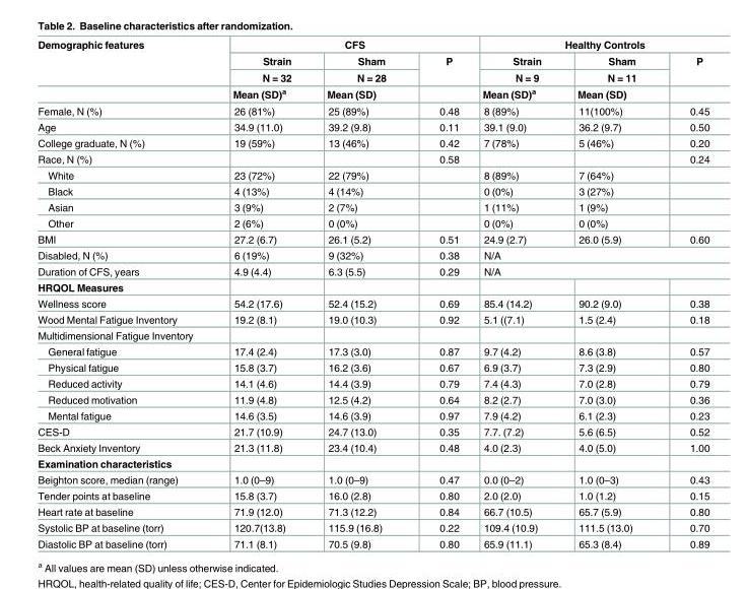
<table><thead><tr><td rowspan="4">Demographic features</td><td colspan="3">CFS</td><td colspan="3">Healthy Controls</td></tr><tr><td rowspan="3">Strain N = 32 Mean (SD)<sup>a</sup></td><td rowspan="3">Sham N = 28 Mean (SD)</td><td rowspan="3">P</td><td rowspan="3">Strain N = 9 Mean (SD)<sup>a</sup></td><td rowspan="3">Sham N = 11 Mean (SD)</td><td rowspan="3">P</td></tr><tr></tr><tr></tr></thead><tbody><tr><td>Female, N (%)</td><td>26 (81%)</td><td>25 (89%)</td><td>0.48</td><td>8 (89%)</td><td>11(100%)</td><td>0.45</td></tr><tr><td>Age</td><td>34.9 (11.0)</td><td>39.2 (9.8)</td><td>0.11</td><td>39.1 (9.0)</td><td>36.2 (9.7)</td><td>0.50</td></tr><tr><td>College graduate, N (%)</td><td>19 (59%)</td><td>13 (46%)</td><td>0.42</td><td>7 (78%)</td><td>5 (46%)</td><td>0.20</td></tr><tr><td>Race, N (%)</td><td></td><td></td><td>0.58</td><td></td><td></td><td>0.24</td></tr><tr><td>White</td><td>23 (72%)</td><td>22 (79%)</td><td></td><td>8 (89%)</td><td>7 (64%)</td><td></td></tr><tr><td>Black</td><td>4 (13%)</td><td>4 (14%)</td><td></td><td>0 (0%)</td><td>3 (27%)</td><td></td></tr><tr><td>Asian</td><td>3 (9%)</td><td>2 (7%)</td><td></td><td>1 (11%)</td><td>1 (9%)</td><td></td></tr><tr><td>Other</td><td>2 (6%)</td><td>0 (0%)</td><td></td><td>0 (0%)</td><td>0 (0%)</td><td></td></tr><tr><td>BMI</td><td>27.2 (6.7)</td><td>26.1 (5.2)</td><td>0.51</td><td>24.9 (2.7)</td><td>26.0 (5.9)</td><td>0.60</td></tr><tr><td>Disabled, N (%)</td><td>6 (19%)</td><td>9 (32%)</td><td>0.38</td><td colspan="3">N/A</td></tr><tr><td>Duration of CFS, years</td><td>4.9 (4.4)</td><td>6.3 (5.5)</td><td>0.29</td><td colspan="3">N/A</td></tr><tr><td colspan="7">HRQOL Measures</td></tr><tr><td>Wellness score</td><td>54.2 (17.6)</td><td>52.4 (15.2)</td><td>0.69</td><td>85.4 (14.2)</td><td>90.2 (9.0)</td><td>0.38</td></tr><tr><td>Wood Mental Fatigue Inventory</td><td>19.2 (8.1)</td><td>19.0 (10.3)</td><td>0.92</td><td>5.1 ((7.1)</td><td>1.5 (2.4)</td><td>0.18</td></tr><tr><td colspan="7">Multidimensional Fatigue Inventory</td></tr><tr><td>General fatigue</td><td>17.4 (2.4)</td><td>17.3 (3.0)</td><td>0.87</td><td>9.7 (4.2)</td><td>8.6 (3.8)</td><td>0.57</td></tr><tr><td>Physical fatigue</td><td>15.8 (3.7)</td><td>16.2 (3.6)</td><td>0.67</td><td>6.9 (3.7)</td><td>7.3 (2.9)</td><td>0.80</td></tr><tr><td>Reduced activity</td><td>14.1 (4.6)</td><td>14.4 (3.9)</td><td>0.79</td><td>7.4 (4.3)</td><td>7.0 (2.8)</td><td>0.79</td></tr><tr><td>Reduced motivation</td><td>11.9 (4.8)</td><td>12.5 (4.2)</td><td>0.64</td><td>8.2 (2.7)</td><td>7.0 (3.0)</td><td>0.36</td></tr><tr><td>Mental fatigue</td><td>14.6 (3.5)</td><td>14.6 (3.9)</td><td>0.97</td><td>7.9 (4.2)</td><td>6.1 (2.3)</td><td>0.23</td></tr><tr><td>CES-D</td><td>21.7 (10.9)</td><td>24.7 (13.0)</td><td>0.35</td><td>7.7. (7.2)</td><td>5.6 (6.5)</td><td>0.52</td></tr><tr><td>Beck Anxiety Inventory</td><td>21.3 (11.8)</td><td>23.4 (10.4)</td><td>0.48</td><td>4.0 (2.3)</td><td>4.0 (5.0)</td><td>1.00</td></tr><tr><td colspan="7">Examination characteristics</td></tr><tr><td>Beighton score, median (range)</td><td>1.0 (0–9)</td><td>1.0 (0–9)</td><td>0.47</td><td>0.0 (0–2)</td><td>1.0 (0–3)</td><td>0.43</td></tr><tr><td>Tender points at baseline</td><td>15.8 (3.7)</td><td>16.0 (2.8)</td><td>0.80</td><td>2.0 (2.0)</td><td>1.0 (1.2)</td><td>0.15</td></tr><tr><td>Heart rate at baseline</td><td>71.9 (12.0)</td><td>71.3 (12.2)</td><td>0.84</td><td>66.7 (10.5)</td><td>65.7 (5.9)</td><td>0.80</td></tr><tr><td>Systolic BP at baseline (torr)</td><td>120.7(13.8)</td><td>115.9 (16.8)</td><td>0.22</td><td>109.4 (10.9)</td><td>111.5 (13.0)</td><td>0.70</td></tr><tr><td>Diastolic BP at baseline (torr)</td><td>71.1 (8.1)</td><td>70.5 (9.8)</td><td>0.80</td><td>65.9 (11.1)</td><td>65.3 (8.4)</td><td>0.89</td></tr></tbody></table>